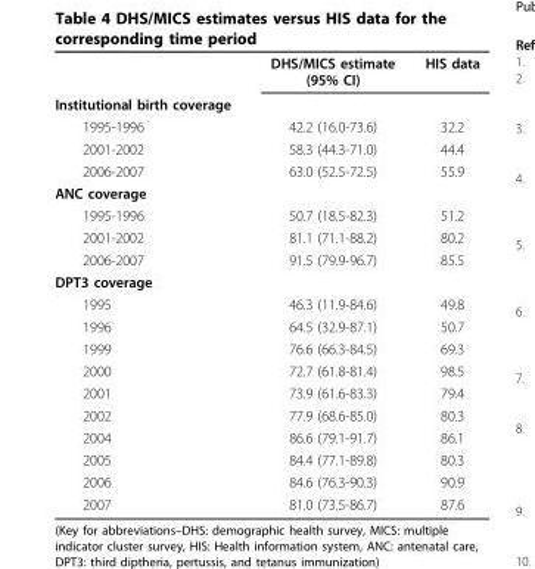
<table><thead><tr><td></td><td>DHS/MICS estimate (95% CI)</td><td>HIS data</td></tr></thead><tbody><tr><td colspan="3">Institutional birth coverage</td></tr><tr><td>1995-1996</td><td>42.2 (16.0-73.6)</td><td>32.2</td></tr><tr><td>2001-2002</td><td>58.3 (44.3-71.0)</td><td>44.4</td></tr><tr><td>2006-2007</td><td>63.0 (52.5-72.5)</td><td>55.9</td></tr><tr><td colspan="3">ANC coverage</td></tr><tr><td>1995-1996</td><td>50.7 (18.5-82.3)</td><td>51.2</td></tr><tr><td>2001-2002</td><td>81.1 (71.1-88.2)</td><td>80.2</td></tr><tr><td>2006-2007</td><td>91.5 (79.9-96.7)</td><td>85.5</td></tr><tr><td colspan="3">DPT3 coverage</td></tr><tr><td>1995</td><td>46.3 (11.9-84.6)</td><td>49.8</td></tr><tr><td>1996</td><td>64.5 (32.9-87.1)</td><td>50.7</td></tr><tr><td>1999</td><td>76.6 (66.3-84.5)</td><td>69.3</td></tr><tr><td>2000</td><td>72.7 (61.8-81.4)</td><td>98.5</td></tr><tr><td>2001</td><td>73.9 (61.6-83.3)</td><td>79.4</td></tr><tr><td>2002</td><td>77.9 (68.6-85.0)</td><td>80.3</td></tr><tr><td>2004</td><td>86.6 (79.1-91.7)</td><td>86.1</td></tr><tr><td>2005</td><td>84.4 (77.1-89.8)</td><td>80.3</td></tr><tr><td>2006</td><td>84.6 (76.3-90.3)</td><td>90.9</td></tr><tr><td>2007</td><td>81.0 (73.5-86.7)</td><td>87.6</td></tr></tbody></table>